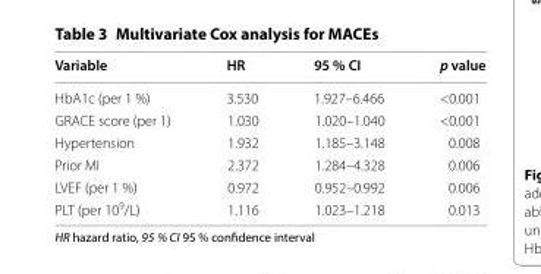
<table><thead><tr><td>Variable</td><td>HR</td><td>95 % CI</td><td>p value</td></tr></thead><tbody><tr><td>HbA1c (per 1 %)</td><td>3.530</td><td>1.927–6.466</td><td>&lt;0.001</td></tr><tr><td>GRACE score (per 1)</td><td>1.030</td><td>1.020–1.040</td><td>&lt;0.001</td></tr><tr><td>Hypertension</td><td>1.932</td><td>1.185–3.148</td><td>0.008</td></tr><tr><td>Prior MI</td><td>2.372</td><td>1.284–4.328</td><td>0.006</td></tr><tr><td>LVEF (per 1 %)</td><td>0.972</td><td>0.952–0.992</td><td>0.006</td></tr><tr><td>PLT (per 10<sup>9</sup>/L)</td><td>1.116</td><td>1.023–1.218</td><td>0.013</td></tr></tbody></table>